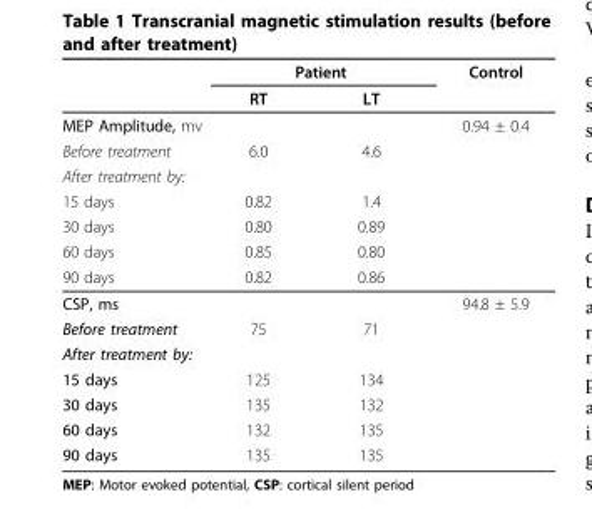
<table><thead><tr><td rowspan="2"></td><td colspan="2">Patient</td><td rowspan="2">Control</td></tr><tr><td>RT</td><td>LT</td></tr></thead><tbody><tr><td>MEP Amplitude, mv</td><td></td><td></td><td>0.94 ± 0.4</td></tr><tr><td>Before treatment</td><td>6.0</td><td>4.6</td><td></td></tr><tr><td colspan="4">After treatment by:</td></tr><tr><td>15 days</td><td>0.82</td><td>1.4</td><td></td></tr><tr><td>30 days</td><td>0.80</td><td>0.89</td><td></td></tr><tr><td>60 days</td><td>0.85</td><td>0.80</td><td></td></tr><tr><td>90 days</td><td>0.82</td><td>0.86</td><td></td></tr><tr><td>CSP, ms</td><td></td><td></td><td>94.8 ± 5.9</td></tr><tr><td>Before treatment</td><td>75</td><td>71</td><td></td></tr><tr><td colspan="4">After treatment by:</td></tr><tr><td>15 days</td><td>125</td><td>134</td><td></td></tr><tr><td>30 days</td><td>135</td><td>132</td><td></td></tr><tr><td>60 days</td><td>132</td><td>135</td><td></td></tr><tr><td>90 days</td><td>135</td><td>135</td><td></td></tr></tbody></table>